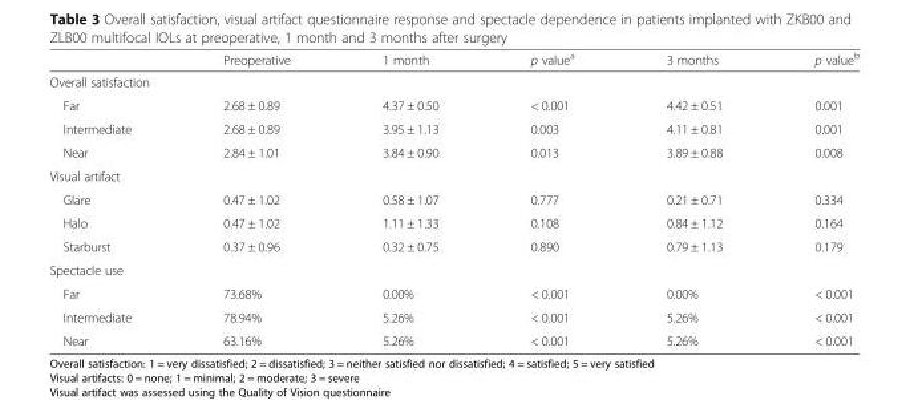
<table><thead><tr><td></td><td>Preoperative</td><td>1 month</td><td>p value<sup>a</sup></td><td>3 months</td><td>p value<sup>b</sup></td></tr></thead><tbody><tr><td colspan="6">Overall satisfaction</td></tr><tr><td>Far</td><td>2.68 ± 0.89</td><td>4.37 ± 0.50</td><td>&lt; 0.001</td><td>4.42 ± 0.51</td><td>0.001</td></tr><tr><td>Intermediate</td><td>2.68 ± 0.89</td><td>3.95 ± 1.13</td><td>0.003</td><td>4.11 ± 0.81</td><td>0.001</td></tr><tr><td>Near</td><td>2.84 ± 1.01</td><td>3.84 ± 0.90</td><td>0.013</td><td>3.89 ± 0.88</td><td>0.008</td></tr><tr><td colspan="6">Visual artifact</td></tr><tr><td>Glare</td><td>0.47 ± 1.02</td><td>0.58 ± 1.07</td><td>0.777</td><td>0.21 ± 0.71</td><td>0.334</td></tr><tr><td>Halo</td><td>0.47 ± 1.02</td><td>1.11 ± 1.33</td><td>0.108</td><td>0.84 ± 1.12</td><td>0.164</td></tr><tr><td>Starburst</td><td>0.37 ± 0.96</td><td>0.32 ± 0.75</td><td>0.890</td><td>0.79 ± 1.13</td><td>0.179</td></tr><tr><td colspan="6">Spectacle use</td></tr><tr><td>Far</td><td>73.68%</td><td>0.00%</td><td>&lt; 0.001</td><td>0.00%</td><td>&lt; 0.001</td></tr><tr><td>Intermediate</td><td>78.94%</td><td>5.26%</td><td>&lt; 0.001</td><td>5.26%</td><td>&lt; 0.001</td></tr><tr><td>Near</td><td>63.16%</td><td>5.26%</td><td>&lt; 0.001</td><td>5.26%</td><td>&lt; 0.001</td></tr></tbody></table>